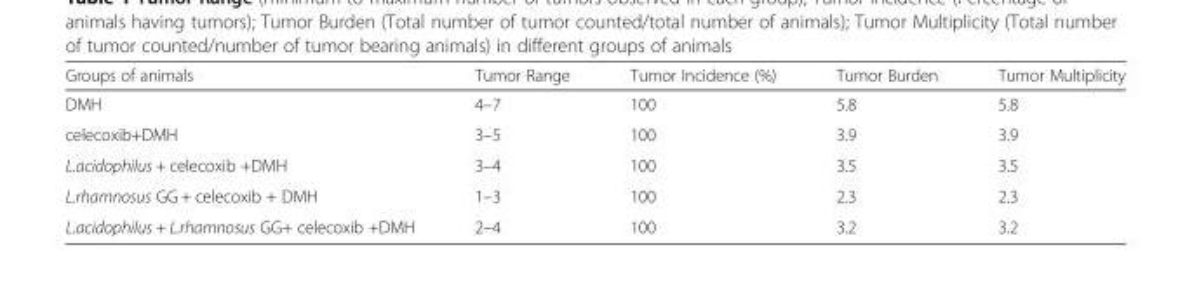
<table><thead><tr><td>Groups of animals</td><td>Tumor Range</td><td>Tumor Incidence (%)</td><td>Tumor Burden</td><td>Tumor Multiplicity</td></tr></thead><tbody><tr><td>DMH</td><td>4–7</td><td>100</td><td>5.8</td><td>5.8</td></tr><tr><td>celecoxib+DMH</td><td>3–5</td><td>100</td><td>3.9</td><td>3.9</td></tr><tr><td>L.acidophilus + celecoxib +DMH</td><td>3–4</td><td>100</td><td>3.5</td><td>3.5</td></tr><tr><td>L.rhamnosus GG + celecoxib + DMH</td><td>1–3</td><td>100</td><td>2.3</td><td>2.3</td></tr><tr><td>L.acidophilus + L.rhamnosus GG+ celecoxib +DMH</td><td>2–4</td><td>100</td><td>3.2</td><td>3.2</td></tr></tbody></table>